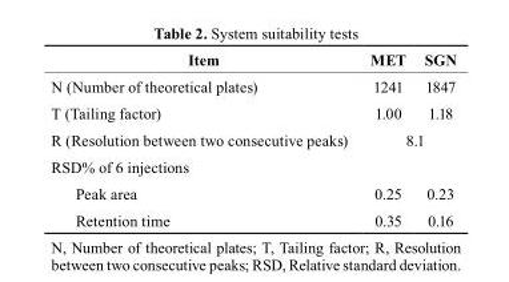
<table><thead><tr><td>Item</td><td>MEt</td><td>sGN</td></tr></thead><tbody><tr><td>N (Number of theoretical plates)</td><td>1241</td><td>1847</td></tr><tr><td>T (Tailing factor)</td><td>1.00</td><td>1.18</td></tr><tr><td>R (Resolution between two consecutive peaks)</td><td colspan="2">8.1</td></tr><tr><td colspan="3">RSD% of 6 injections</td></tr><tr><td>Peak area</td><td>0.25</td><td>0.23</td></tr><tr><td>Retention time</td><td>0.35</td><td>0.16</td></tr></tbody></table>